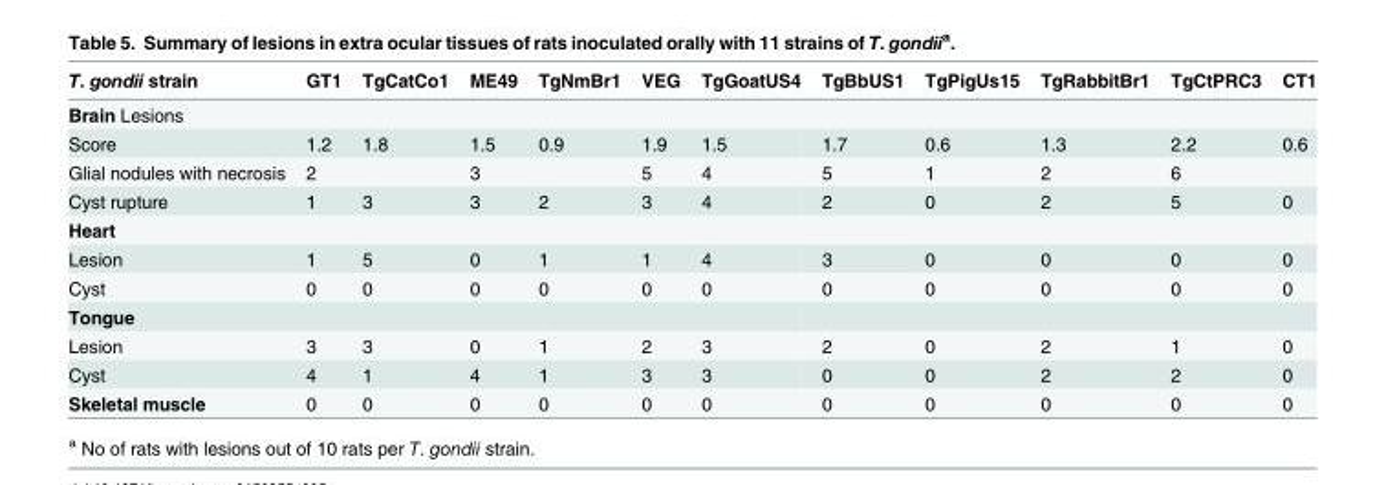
<table><thead><tr><td>T. gondii strain</td><td>GT1</td><td>TgCatCo1</td><td>ME49</td><td>TgNmBr1</td><td>VEG</td><td>TgGoatUS4</td><td>TgBbUS1</td><td>TgPigUs15</td><td>TgRabbitBr1</td><td>TgCtPRC3</td><td>CT1</td></tr></thead><tbody><tr><td colspan="12">Brain Lesions</td></tr><tr><td>Score</td><td>1.2</td><td>1.8</td><td>1.5</td><td>0.9</td><td>1.9</td><td>1.5</td><td>1.7</td><td>0.6</td><td>1.3</td><td>2.2</td><td>0.6</td></tr><tr><td>Glial nodules with necrosis</td><td>2</td><td></td><td>3</td><td></td><td>5</td><td>4</td><td>5</td><td>1</td><td>2</td><td>6</td><td></td></tr><tr><td>Cyst rupture</td><td>1</td><td>3</td><td>3</td><td>2</td><td>3</td><td>4</td><td>2</td><td>0</td><td>2</td><td>5</td><td>0</td></tr><tr><td colspan="12">Heart</td></tr><tr><td>Lesion</td><td>1</td><td>5</td><td>0</td><td>1</td><td>1</td><td>4</td><td>3</td><td>0</td><td>0</td><td>0</td><td>0</td></tr><tr><td>Cyst</td><td>0</td><td>0</td><td>0</td><td>0</td><td>0</td><td>0</td><td>0</td><td>0</td><td>0</td><td>0</td><td>0</td></tr><tr><td colspan="12">Tongue</td></tr><tr><td>Lesion</td><td>3</td><td>3</td><td>0</td><td>1</td><td>2</td><td>3</td><td>2</td><td>0</td><td>2</td><td>1</td><td>0</td></tr><tr><td>Cyst</td><td>4</td><td>1</td><td>4</td><td>1</td><td>3</td><td>3</td><td>0</td><td>0</td><td>2</td><td>2</td><td>0</td></tr><tr><td>Skeletal muscle</td><td>0</td><td>0</td><td>0</td><td>0</td><td>0</td><td>0</td><td>0</td><td>0</td><td>0</td><td>0</td><td>0</td></tr></tbody></table>